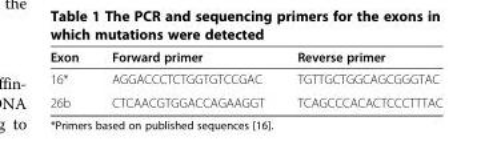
<table><thead><tr><td>Exon</td><td>Forward primer</td><td>Reverse primer</td></tr></thead><tbody><tr><td>16*</td><td>AGGACCCTCTGGTGTCCGAC</td><td>TGTTGCTGGCAGCGGGTAC</td></tr><tr><td>26b</td><td>CTCAACGTGGACCAGAAGGT</td><td>TCAGCCCACACTCCCTTTAC</td></tr></tbody></table>